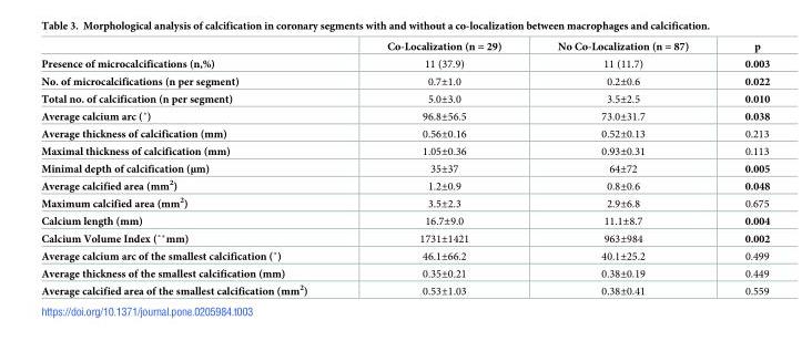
<table><thead><tr><td></td><td>Co-Localization (n = 29)</td><td>No Co-Localization (n = 87)</td><td>p</td></tr></thead><tbody><tr><td>Presence of microcalcifications (n,%)</td><td>11 (37.9)</td><td>11 (11.7)</td><td>0.003</td></tr><tr><td>No. of microcalcifications (n per segment)</td><td>0.7±1.0</td><td>0.2±0.6</td><td>0.022</td></tr><tr><td>Total no. of calcification (n per segment)</td><td>5.0±3.0</td><td>3.5±2.5</td><td>0.010</td></tr><tr><td>Average calcium arc (˚)</td><td>96.8±56.5</td><td>73.0±31.7</td><td>0.038</td></tr><tr><td>Average thickness of calcification (mm)</td><td>0.56±0.16</td><td>0.52±0.13</td><td>0.213</td></tr><tr><td>Maximal thickness of calcification (mm)</td><td>1.05±0.36</td><td>0.93±0.31</td><td>0.113</td></tr><tr><td>Minimal depth of calcification (μm)</td><td>35±37</td><td>64±72</td><td>0.005</td></tr><tr><td>Average calcified area (mm<sup>2</sup>)</td><td>1.2±0.9</td><td>0.8±0.6</td><td>0.048</td></tr><tr><td>Maximum calcified area (mm<sup>2</sup>)</td><td>3.5±2.3</td><td>2.9±6.8</td><td>0.675</td></tr><tr><td>Calcium length (mm)</td><td>16.7±9.0</td><td>11.1±8.7</td><td>0.004</td></tr><tr><td>Calcium Volume Index (˚*mm)</td><td>1731±1421</td><td>963±984</td><td>0.002</td></tr><tr><td>Average calcium arc of the smallest calcification (˚)</td><td>46.1±66.2</td><td>40.1±25.2</td><td>0.499</td></tr><tr><td>Average thickness of the smallest calcification (mm)</td><td>0.35±0.21</td><td>0.38±0.19</td><td>0.449</td></tr><tr><td>Average calcified area of the smallest calcification (mm<sup>2</sup>)</td><td>0.53±1.03</td><td>0.38±0.41</td><td>0.559</td></tr></tbody></table>